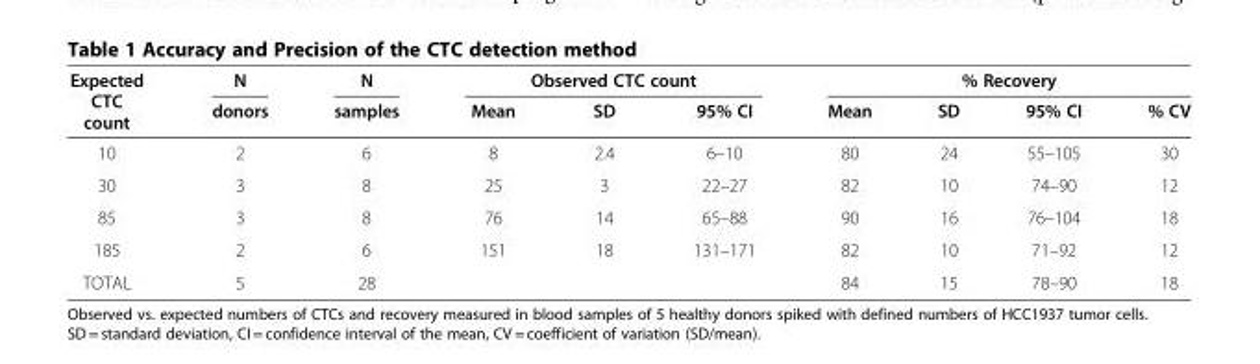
<table><thead><tr><td rowspan="2">Expected CTC count</td><td rowspan="2">N donors</td><td rowspan="2">N samples</td><td colspan="3">Observed CTC count</td><td colspan="4">% Recovery</td></tr><tr><td>Mean</td><td>SD</td><td>95% CI</td><td>Mean</td><td>SD</td><td>95% CI</td><td>% CV</td></tr></thead><tbody><tr><td>10</td><td>2</td><td>6</td><td>8</td><td>2.4</td><td>6–10</td><td>80</td><td>24</td><td>55–105</td><td>30</td></tr><tr><td>30</td><td>3</td><td>8</td><td>25</td><td>3</td><td>22–27</td><td>82</td><td>10</td><td>74–90</td><td>12</td></tr><tr><td>85</td><td>3</td><td>8</td><td>76</td><td>14</td><td>65–88</td><td>90</td><td>16</td><td>76–104</td><td>18</td></tr><tr><td>185</td><td>2</td><td>6</td><td>151</td><td>18</td><td>131–171</td><td>82</td><td>10</td><td>71–92</td><td>12</td></tr><tr><td>TOTAL</td><td>5</td><td>28</td><td colspan="3"></td><td>84</td><td>15</td><td>78–90</td><td>18</td></tr></tbody></table>